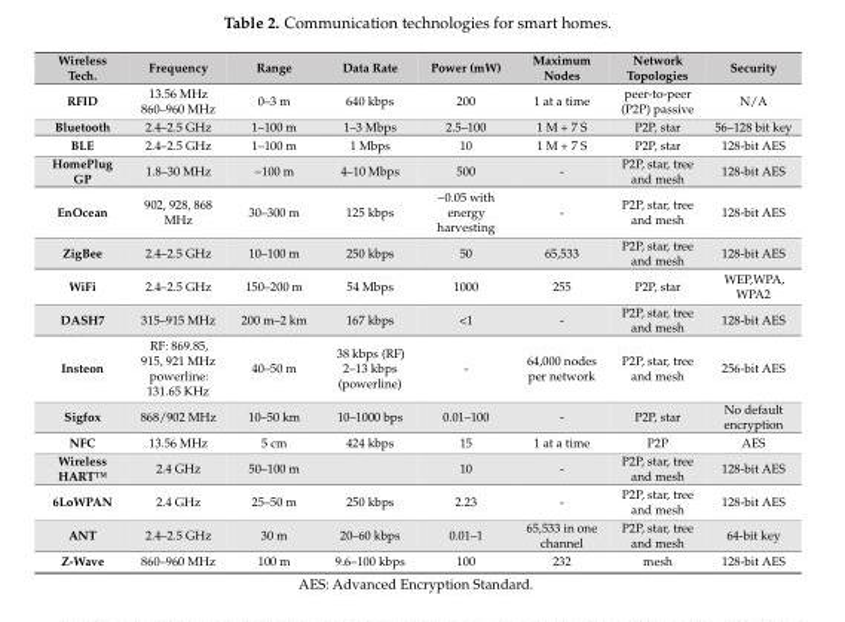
<table><thead><tr><td>Wireless Tech.</td><td>Frequency</td><td>Range</td><td>Data Rate</td><td>Power (mW)</td><td>Maximum Nodes</td><td>Network Topologies</td><td>Security</td></tr></thead><tbody><tr><td>RFID</td><td>13.56 MHz 860–960 MHz</td><td>0–3 m</td><td>640 kbps</td><td>200</td><td>1 at a time</td><td>peer-to-peer (P2P) passive</td><td>N/A</td></tr><tr><td>Bluetooth</td><td>2.4–2.5 GHz</td><td>1–100 m</td><td>1–3 Mbps</td><td>2.5–100</td><td>1 M + 7 S</td><td>P2P, star</td><td>56–128 bit key</td></tr><tr><td>BLE</td><td>2.4–2.5 GHz</td><td>1–100 m</td><td>1 Mbps</td><td>10</td><td>1 M + 7 S</td><td>P2P, star</td><td>128-bit AES</td></tr><tr><td>HomePlug GP</td><td>1.8–30 MHz</td><td>~100 m</td><td>4–10 Mbps</td><td>500</td><td>-</td><td>P2P, star, tree and mesh</td><td>128-bit AES</td></tr><tr><td>EnOcean</td><td>902, 928, 868 MHz</td><td>30–300 m</td><td>125 kbps</td><td>~0.05 with energy harvesting</td><td>-</td><td>P2P, star, tree and mesh</td><td>128-bit AES</td></tr><tr><td>ZigBee</td><td>2.4–2.5 GHz</td><td>10–100 m</td><td>250 kbps</td><td>50</td><td>65,533</td><td>P2P, star, tree and mesh</td><td>128-bit AES</td></tr><tr><td>WiFi</td><td>2.4–2.5 GHz</td><td>150–200 m</td><td>54 Mbps</td><td>1000</td><td>255</td><td>P2P, star</td><td>WEP,WPA, WPA2</td></tr><tr><td>DASH7</td><td>315–915 MHz</td><td>200 m–2 km</td><td>167 kbps</td><td>&lt;1</td><td>-</td><td>P2P, star, tree and mesh</td><td>128-bit AES</td></tr><tr><td>Insteon</td><td>RF: 869.85, 915, 921 MHz powerline: 131.65 KHz</td><td>40–50 m</td><td>38 kbps (RF) 2–13 kbps (powerline)</td><td>-</td><td>64,000 nodes per network</td><td>P2P, star, tree and mesh</td><td>256-bit AES</td></tr><tr><td>Sigfox</td><td>868/902 MHz</td><td>10–50 km</td><td>10–1000 bps</td><td>0.01–100</td><td>-</td><td>P2P, star</td><td>No default encryption</td></tr><tr><td>NFC</td><td>13.56 MHz</td><td>5 cm</td><td>424 kbps</td><td>15</td><td>1 at a time</td><td>P2P</td><td>AES</td></tr><tr><td>Wireless HART™</td><td>2.4 GHz</td><td>50–100 m</td><td></td><td>10</td><td>-</td><td>P2P, star, tree and mesh</td><td>128-bit AES</td></tr><tr><td>6LoWPAN</td><td>2.4 GHz</td><td>25–50 m</td><td>250 kbps</td><td>2.23</td><td>-</td><td>P2P, star, tree and mesh</td><td>128-bit AES</td></tr><tr><td>ANT</td><td>2.4–2.5 GHz</td><td>30 m</td><td>20–60 kbps</td><td>0.01–1</td><td>65,533 in one channel</td><td>P2P, star, tree and mesh</td><td>64-bit key</td></tr><tr><td>Z-Wave</td><td>860–960 MHz</td><td>100 m</td><td>9.6–100 kbps</td><td>100</td><td>232</td><td>mesh</td><td>128-bit AES</td></tr></tbody></table>